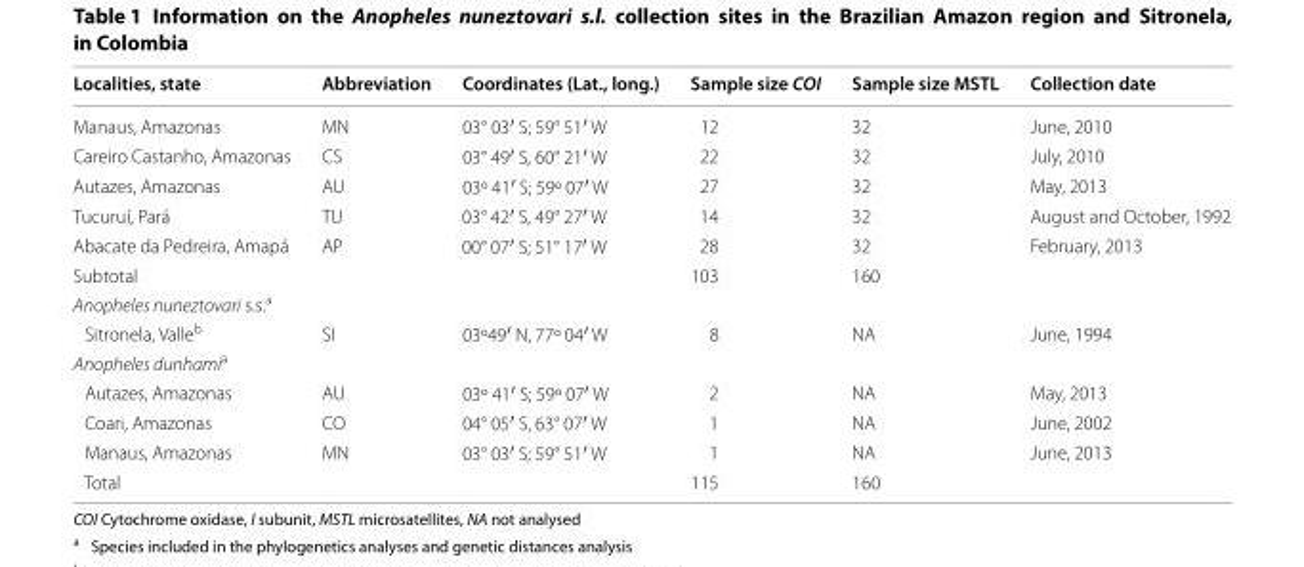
<table><thead><tr><td>Localities, state</td><td>Abbreviation</td><td>Coordinates (Lat., long.)</td><td>Sample size COI</td><td>Sample size MSTL</td><td>Collection date</td></tr></thead><tbody><tr><td>Manaus, Amazonas</td><td>MN</td><td>03° 03′ S; 59° 51′ W</td><td>12</td><td>32</td><td>June, 2010</td></tr><tr><td>Careiro Castanho, Amazonas</td><td>CS</td><td>03° 49′ S, 60° 21′ W</td><td>22</td><td>32</td><td>July, 2010</td></tr><tr><td>Autazes, Amazonas</td><td>AU</td><td>03º 41′ S; 59º 07′ W</td><td>27</td><td>32</td><td>May, 2013</td></tr><tr><td>Tucuruí, Pará</td><td>TU</td><td>03° 42′ S, 49° 27′ W</td><td>14</td><td>32</td><td>August and October, 1992</td></tr><tr><td>Abacate da Pedreira, Amapá</td><td>AP</td><td>00° 07′ S; 51° 17′ W</td><td>28</td><td>32</td><td>February, 2013</td></tr><tr><td colspan="3">Subtotal</td><td>103</td><td>160</td><td></td></tr><tr><td colspan="6">Anopheles nuneztovari s.s.<sup>a</sup></td></tr><tr><td>Sitronela, Valle<sup>b</sup></td><td>SI</td><td>03º49′ N, 77º 04′ W</td><td>8</td><td>NA</td><td>June, 1994</td></tr><tr><td colspan="6">Anopheles dunhami<sup>a</sup></td></tr><tr><td>Autazes, Amazonas</td><td>AU</td><td>03º 41′ S; 59º 07′ W</td><td>2</td><td>NA</td><td>May, 2013</td></tr><tr><td>Coari, Amazonas</td><td>CO</td><td>04° 05′ S, 63° 07′ W</td><td>1</td><td>NA</td><td>June, 2002</td></tr><tr><td>Manaus, Amazonas</td><td>MN</td><td>03° 03′ S; 59° 51′ W</td><td>1</td><td>NA</td><td>June, 2013</td></tr><tr><td colspan="3">Total</td><td>115</td><td>160</td><td></td></tr></tbody></table>